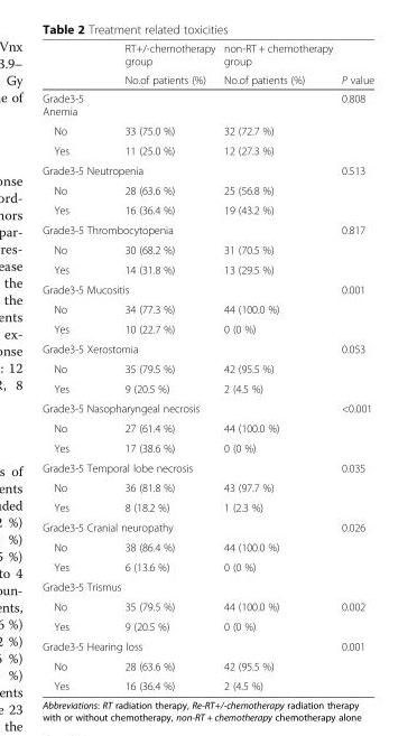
<table><thead><tr><td rowspan="2"></td><td rowspan="2">RT+/-chemotherapy group No.of patients (%)</td><td rowspan="2">non-RT + chemotherapy group No.of patients (%)</td><td rowspan="2">P value</td></tr><tr></tr></thead><tbody><tr><td>Grade3-5 Anemia</td><td></td><td></td><td>0.808</td></tr><tr><td>No</td><td>33 (75.0 %)</td><td>32 (72.7 %)</td><td></td></tr><tr><td>Yes</td><td>11 (25.0 %)</td><td>12 (27.3 %)</td><td></td></tr><tr><td colspan="2">Grade3-5 Neutropenia</td><td></td><td>0.513</td></tr><tr><td>No</td><td>28 (63.6 %)</td><td>25 (56.8 %)</td><td></td></tr><tr><td>Yes</td><td>16 (36.4 %)</td><td>19 (43.2 %)</td><td></td></tr><tr><td colspan="2">Grade3-5 Thrombocytopenia</td><td></td><td>0.817</td></tr><tr><td>No</td><td>30 (68.2 %)</td><td>31 (70.5 %)</td><td></td></tr><tr><td>Yes</td><td>14 (31.8 %)</td><td>13 (29.5 %)</td><td></td></tr><tr><td colspan="2">Grade3-5 Mucositis</td><td></td><td>0.001</td></tr><tr><td>No</td><td>34 (77.3 %)</td><td>44 (100.0 %)</td><td></td></tr><tr><td>Yes</td><td>10 (22.7 %)</td><td>0 (0 %)</td><td></td></tr><tr><td colspan="2">Grade3-5 Xerostomia</td><td></td><td>0.053</td></tr><tr><td>No</td><td>35 (79.5 %)</td><td>42 (95.5 %)</td><td></td></tr><tr><td>Yes</td><td>9 (20.5 %)</td><td>2 (4.5 %)</td><td></td></tr><tr><td colspan="2">Grade3-5 Nasopharyngeal necrosis</td><td></td><td>&lt;0.001</td></tr><tr><td>No</td><td>27 (61.4 %)</td><td>44 (100.0 %)</td><td></td></tr><tr><td>Yes</td><td>17 (38.6 %)</td><td>0 (0 %)</td><td></td></tr><tr><td colspan="2">Grade3-5 Temporal lobe necrosis</td><td></td><td>0.035</td></tr><tr><td>No</td><td>36 (81.8 %)</td><td>43 (97.7 %)</td><td></td></tr><tr><td>Yes</td><td>8 (18.2 %)</td><td>1 (2.3 %)</td><td></td></tr><tr><td colspan="2">Grade3-5 Cranial neuropathy</td><td></td><td>0.026</td></tr><tr><td>No</td><td>38 (86.4 %)</td><td>44 (100.0 %)</td><td></td></tr><tr><td>Yes</td><td>6 (13.6 %)</td><td>0 (0 %)</td><td></td></tr><tr><td colspan="4">Grade3-5 Trismus</td></tr><tr><td>No</td><td>35 (79.5 %)</td><td>44 (100.0 %)</td><td>0.002</td></tr><tr><td>Yes</td><td>9 (20.5 %)</td><td>0 (0 %)</td><td></td></tr><tr><td colspan="2">Grade3-5 Hearing loss</td><td></td><td>0.001</td></tr><tr><td>No</td><td>28 (63.6 %)</td><td>42 (95.5 %)</td><td></td></tr><tr><td>Yes</td><td>16 (36.4 %)</td><td>2 (4.5 %)</td><td></td></tr></tbody></table>